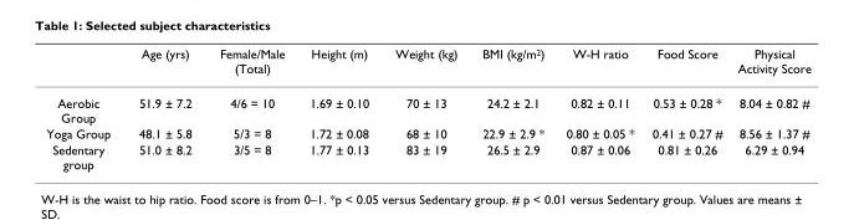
<table><thead><tr><td></td><td>Age (yrs)</td><td>Female/Male (Total)</td><td>Height (m)</td><td>Weight (kg)</td><td>BMI (kg/m<sup>2</sup>)</td><td>W-H ratio</td><td>Food Score</td><td>Physical Activity Score</td></tr></thead><tbody><tr><td>Aerobic Group</td><td>51.9 ± 7.2</td><td>4/6 = 10</td><td>1.69 ± 0.10</td><td>70 ± 13</td><td>24.2 ± 2.1</td><td>0.82 ± 0.11</td><td>0.53 ± 0.28 *</td><td>8.04 ± 0.82 #</td></tr><tr><td>Yoga Group</td><td>48.1 ± 5.8</td><td>5/3 = 8</td><td>1.72 ± 0.08</td><td>68 ± 10</td><td>22.9 ± 2.9 *</td><td>0.80 ± 0.05 *</td><td>0.41 ± 0.27 #</td><td>8.56 ± 1.37 #</td></tr><tr><td>Sedentary group</td><td>51.0 ± 8.2</td><td>3/5 = 8</td><td>1.77 ± 0.13</td><td>83 ± 19</td><td>26.5 ± 2.9</td><td>0.87 ± 0.06</td><td>0.81 ± 0.26</td><td>6.29 ± 0.94</td></tr></tbody></table>